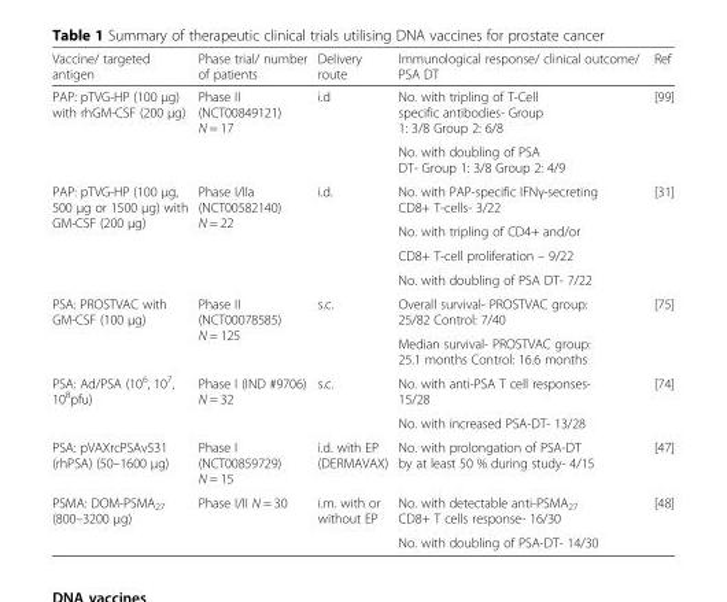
<table><thead><tr><td>Vaccine/ targeted antigen</td><td>Phase trial/ number of patients</td><td>Delivery route</td><td>Immunological response/ clinical outcome/ PSA DT</td><td>Ref</td></tr></thead><tbody><tr><td rowspan="2">PAP: pTVG-HP (100 μg) with rhGM-CSF (200 μg)</td><td rowspan="2">Phase II (NCT00849121) N = 17</td><td rowspan="2">i.d</td><td>No. with tripling of T-Cell specific antibodies- Group 1: 3/8 Group 2: 6/8</td><td rowspan="2">[99]</td></tr><tr><td>No. with doubling of PSA DT- Group 1: 3/8 Group 2: 4/9</td></tr><tr><td rowspan="4">PAP: pTVG-HP (100 μg, 500 μg or 1500 μg) with GM-CSF (200 μg)</td><td rowspan="4">Phase I/IIa (NCT00582140) N = 22</td><td rowspan="4">i.d.</td><td>No. with PAP-specific IFNγ-secreting CD8+ T-cells- 3/22</td><td rowspan="4">[31]</td></tr><tr><td>No. with tripling of CD4+ and/or</td></tr><tr><td>CD8+ T-cell proliferation – 9/22</td></tr><tr><td>No. with doubling of PSA DT- 7/22</td></tr><tr><td rowspan="2">PSA: PROSTVAC with GM-CSF (100 μg)</td><td rowspan="2">Phase II (NCT00078585) N = 125</td><td rowspan="2">s.c.</td><td>Overall survival- PROSTVAC group: 25/82 Control: 7/40</td><td rowspan="2">[75]</td></tr><tr><td>Median survival- PROSTVAC group: 25.1 months Control: 16.6 months</td></tr><tr><td rowspan="2">PSA: Ad/PSA (10<sup>6</sup>, 10<sup>7</sup>, 10<sup>8</sup>pfu)</td><td rowspan="2">Phase I (IND #9706) N = 32</td><td rowspan="2">s.c.</td><td>No. with anti-PSA T cell responses- 15/28</td><td rowspan="2">[74]</td></tr><tr><td>No. with increased PSA-DT- 13/28</td></tr><tr><td>PSA: pVAXrcPSAv531 (rhPSA) (50–1600 μg)</td><td>Phase I (NCT00859729) N = 15</td><td>i.d. with EP (DERMAVAX)</td><td>No. with prolongation of PSA-DT by at least 50 % during study- 4/15</td><td>[47]</td></tr><tr><td rowspan="2">PSMA: DOM-PSMA<sub>27</sub> (800–3200 μg)</td><td rowspan="2">Phase I/II N = 30</td><td rowspan="2">i.m. with or without EP</td><td>No. with detectable anti-PSMA<sub>27</sub> CD8+ T cells response- 16/30</td><td rowspan="2">[48]</td></tr><tr><td>No. with doubling of PSA-DT- 14/30</td></tr></tbody></table>